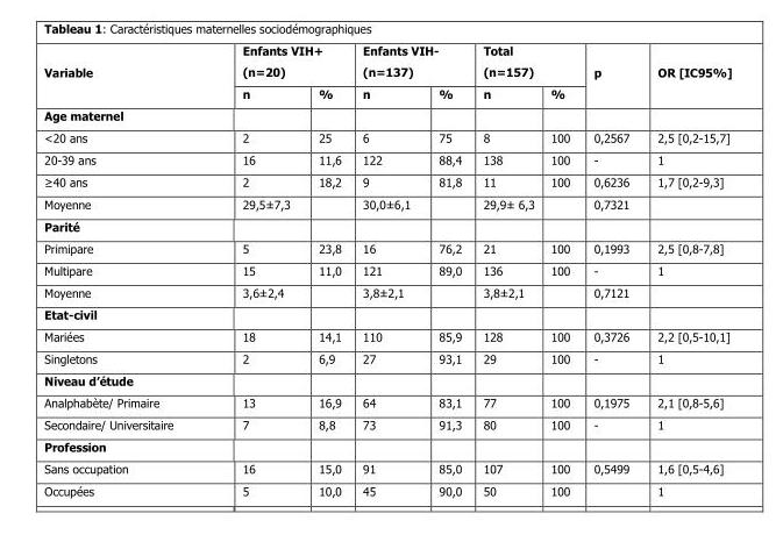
<table><thead><tr><td rowspan="2">Variable</td><td colspan="2">Enfants VIH+ (n=20)</td><td colspan="2">Enfants VIH- (n=137)</td><td colspan="2">Total (n=157)</td><td rowspan="2">p</td><td rowspan="2">OR [IC95%]</td></tr><tr><td>n</td><td>%</td><td>n</td><td>%</td><td>n</td><td>%</td></tr></thead><tbody><tr><td colspan="9">Age maternel</td></tr><tr><td>&lt;20 ans</td><td>2</td><td>25</td><td>6</td><td>75</td><td>8</td><td>100</td><td>0,2567</td><td>2,5 [0,2-15,7]</td></tr><tr><td>20-39 ans</td><td>16</td><td>11,6</td><td>122</td><td>88,4</td><td>138</td><td>100</td><td>-</td><td>1</td></tr><tr><td>≥40 ans</td><td>2</td><td>18,2</td><td>9</td><td>81,8</td><td>11</td><td>100</td><td>0,6236</td><td>1,7 [0,2-9,3]</td></tr><tr><td>Moyenne</td><td>29,5±7,3</td><td></td><td>30,0±6,1</td><td></td><td>29,9± 6,3</td><td></td><td>0,7321</td><td></td></tr><tr><td colspan="9">Parité</td></tr><tr><td>Primipare</td><td>5</td><td>23,8</td><td>16</td><td>76,2</td><td>21</td><td>100</td><td>0,1993</td><td>2,5 [0,8-7,8]</td></tr><tr><td>Multipare</td><td>15</td><td>11,0</td><td>121</td><td>89,0</td><td>136</td><td>100</td><td>-</td><td>1</td></tr><tr><td>Moyenne</td><td>3,6±2,4</td><td></td><td>3,8±2,1</td><td></td><td>3,8±2,1</td><td></td><td>0,7121</td><td></td></tr><tr><td colspan="9">Etat-civil</td></tr><tr><td>Mariées</td><td>18</td><td>14,1</td><td>110</td><td>85,9</td><td>128</td><td>100</td><td>0,3726</td><td>2,2 [0,5-10,1]</td></tr><tr><td>Singletons</td><td>2</td><td>6,9</td><td>27</td><td>93,1</td><td>29</td><td>100</td><td>-</td><td>1</td></tr><tr><td colspan="9">Niveau d’étude</td></tr><tr><td>Analphabète/ Primaire</td><td>13</td><td>16,9</td><td>64</td><td>83,1</td><td>77</td><td>100</td><td>0,1975</td><td>2,1 [0,8-5,6]</td></tr><tr><td>Secondaire/ Universitaire</td><td>7</td><td>8,8</td><td>73</td><td>91,3</td><td>80</td><td>100</td><td>-</td><td>1</td></tr><tr><td colspan="9">Profession</td></tr><tr><td>Sans occupation</td><td>16</td><td>15,0</td><td>91</td><td>85,0</td><td>107</td><td>100</td><td>0,5499</td><td>1,6 [0,5-4,6]</td></tr><tr><td>Occupées</td><td>5</td><td>10,0</td><td>45</td><td>90,0</td><td>50</td><td>100</td><td></td><td>1</td></tr></tbody></table>